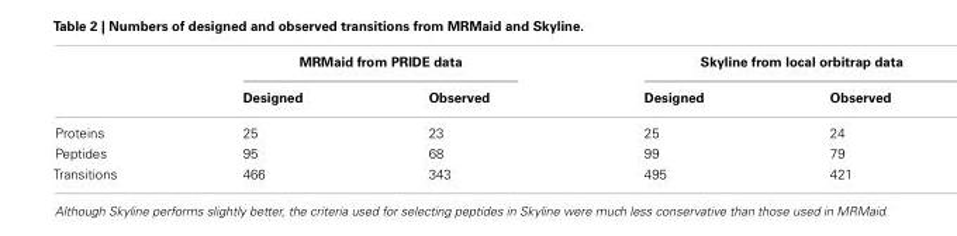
<table><thead><tr><td rowspan="2"></td><td colspan="2">MRMaid from PRIDE data</td><td colspan="2">Skyline from local orbitrap data</td></tr><tr><td>Designed</td><td>Observed</td><td>Designed</td><td>Observed</td></tr></thead><tbody><tr><td>Proteins</td><td>25</td><td>23</td><td>25</td><td>24</td></tr><tr><td>Peptides</td><td>95</td><td>68</td><td>99</td><td>79</td></tr><tr><td>Transitions</td><td>466</td><td>343</td><td>495</td><td>421</td></tr></tbody></table>